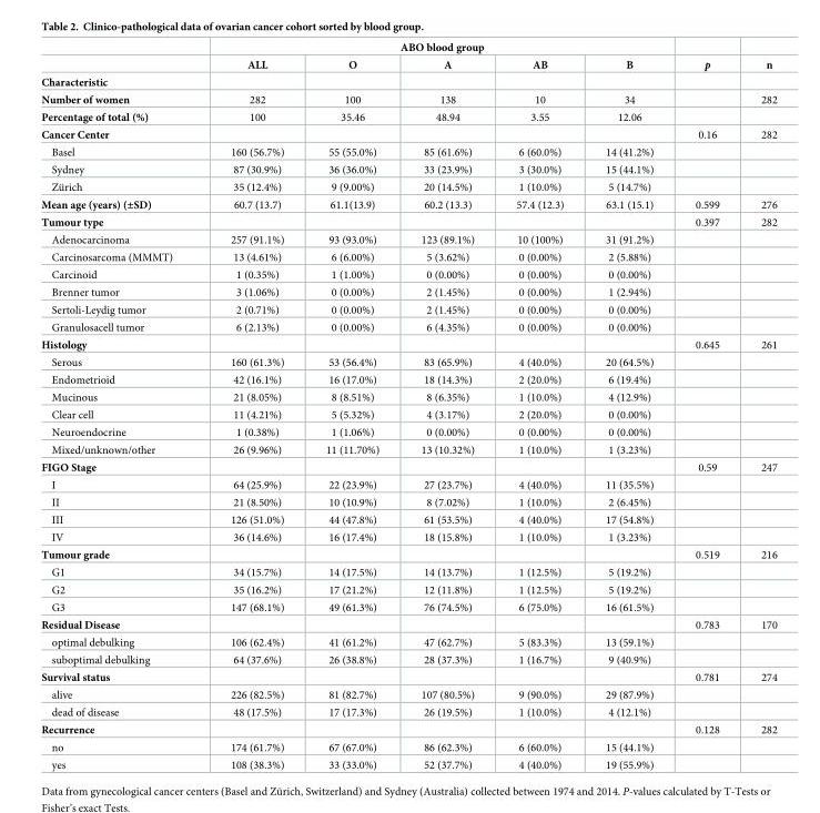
<table><thead><tr><td rowspan="3">Characteristic</td><td colspan="5">ABO blood group</td><td rowspan="3">p</td><td rowspan="3">n</td></tr><tr><td rowspan="2">ALL</td><td rowspan="2">O</td><td rowspan="2">A</td><td rowspan="2">AB</td><td rowspan="2">B</td></tr><tr></tr></thead><tbody><tr><td>Number of women</td><td>282</td><td>100</td><td>138</td><td>10</td><td>34</td><td></td><td>282</td></tr><tr><td>Percentage of total (%)</td><td>100</td><td>35.46</td><td>48.94</td><td>3.55</td><td>12.06</td><td></td><td></td></tr><tr><td>Cancer Center</td><td></td><td></td><td></td><td></td><td></td><td>0.16</td><td>282</td></tr><tr><td>Basel</td><td>160 (56.7%)</td><td>55 (55.0%)</td><td>85 (61.6%)</td><td>6 (60.0%)</td><td>14 (41.2%)</td><td></td><td></td></tr><tr><td>Sydney</td><td>87 (30.9%)</td><td>36 (36.0%)</td><td>33 (23.9%)</td><td>3 (30.0%)</td><td>15 (44.1%)</td><td></td><td></td></tr><tr><td>Zu¨rich</td><td>35 (12.4%)</td><td>9 (9.00%)</td><td>20 (14.5%)</td><td>1 (10.0%)</td><td>5 (14.7%)</td><td></td><td></td></tr><tr><td>Mean age (years) (±SD)</td><td>60.7 (13.7)</td><td>61.1(13.9)</td><td>60.2 (13.3)</td><td>57.4 (12.3)</td><td>63.1 (15.1)</td><td>0.599</td><td>276</td></tr><tr><td>Tumour type</td><td></td><td></td><td></td><td></td><td></td><td>0.397</td><td>282</td></tr><tr><td>Adenocarcinoma</td><td>257 (91.1%)</td><td>93 (93.0%)</td><td>123 (89.1%)</td><td>10 (100%)</td><td>31 (91.2%)</td><td></td><td></td></tr><tr><td>Carcinosarcoma (MMMT)</td><td>13 (4.61%)</td><td>6 (6.00%)</td><td>5 (3.62%)</td><td>0 (0.00%)</td><td>2 (5.88%)</td><td></td><td></td></tr><tr><td>Carcinoid</td><td>1 (0.35%)</td><td>1 (1.00%)</td><td>0 (0.00%)</td><td>0 (0.00%)</td><td>0 (0.00%)</td><td></td><td></td></tr><tr><td>Brenner tumor</td><td>3 (1.06%)</td><td>0 (0.00%)</td><td>2 (1.45%)</td><td>0 (0.00%)</td><td>1 (2.94%)</td><td></td><td></td></tr><tr><td>Sertoli-Leydig tumor</td><td>2 (0.71%)</td><td>0 (0.00%)</td><td>2 (1.45%)</td><td>0 (0.00%)</td><td>0 (0.00%)</td><td></td><td></td></tr><tr><td>Granulosacell tumor</td><td>6 (2.13%)</td><td>0 (0.00%)</td><td>6 (4.35%)</td><td>0 (0.00%)</td><td>0 (0.00%)</td><td></td><td></td></tr><tr><td>Histology</td><td></td><td></td><td></td><td></td><td></td><td>0.645</td><td>261</td></tr><tr><td>Serous</td><td>160 (61.3%)</td><td>53 (56.4%)</td><td>83 (65.9%)</td><td>4 (40.0%)</td><td>20 (64.5%)</td><td></td><td></td></tr><tr><td>Endometrioid</td><td>42 (16.1%)</td><td>16 (17.0%)</td><td>18 (14.3%)</td><td>2 (20.0%)</td><td>6 (19.4%)</td><td></td><td></td></tr><tr><td>Mucinous</td><td>21 (8.05%)</td><td>8 (8.51%)</td><td>8 (6.35%)</td><td>1 (10.0%)</td><td>4 (12.9%)</td><td></td><td></td></tr><tr><td>Clear cell</td><td>11 (4.21%)</td><td>5 (5.32%)</td><td>4 (3.17%)</td><td>2 (20.0%)</td><td>0 (0.00%)</td><td></td><td></td></tr><tr><td>Neuroendocrine</td><td>1 (0.38%)</td><td>1 (1.06%)</td><td>0 (0.00%)</td><td>0 (0.00%)</td><td>0 (0.00%)</td><td></td><td></td></tr><tr><td>Mixed/unknown/other</td><td>26 (9.96%)</td><td>11 (11.70%)</td><td>13 (10.32%)</td><td>1 (10.0%)</td><td>1 (3.23%)</td><td></td><td></td></tr><tr><td>FIGO Stage</td><td></td><td></td><td></td><td></td><td></td><td>0.59</td><td>247</td></tr><tr><td>I</td><td>64 (25.9%)</td><td>22 (23.9%)</td><td>27 (23.7%)</td><td>4 (40.0%)</td><td>11 (35.5%)</td><td></td><td></td></tr><tr><td>II</td><td>21 (8.50%)</td><td>10 (10.9%)</td><td>8 (7.02%)</td><td>1 (10.0%)</td><td>2 (6.45%)</td><td></td><td></td></tr><tr><td>III</td><td>126 (51.0%)</td><td>44 (47.8%)</td><td>61 (53.5%)</td><td>4 (40.0%)</td><td>17 (54.8%)</td><td></td><td></td></tr><tr><td>IV</td><td>36 (14.6%)</td><td>16 (17.4%)</td><td>18 (15.8%)</td><td>1 (10.0%)</td><td>1 (3.23%)</td><td></td><td></td></tr><tr><td>Tumour grade</td><td></td><td></td><td></td><td></td><td></td><td>0.519</td><td>216</td></tr><tr><td>G1</td><td>34 (15.7%)</td><td>14 (17.5%)</td><td>14 (13.7%)</td><td>1 (12.5%)</td><td>5 (19.2%)</td><td></td><td></td></tr><tr><td>G2</td><td>35 (16.2%)</td><td>17 (21.2%)</td><td>12 (11.8%)</td><td>1 (12.5%)</td><td>5 (19.2%)</td><td></td><td></td></tr><tr><td>G3</td><td>147 (68.1%)</td><td>49 (61.3%)</td><td>76 (74.5%)</td><td>6 (75.0%)</td><td>16 (61.5%)</td><td></td><td></td></tr><tr><td>Residual Disease</td><td></td><td></td><td></td><td></td><td></td><td>0.783</td><td>170</td></tr><tr><td>optimal debulking</td><td>106 (62.4%)</td><td>41 (61.2%)</td><td>47 (62.7%)</td><td>5 (83.3%)</td><td>13 (59.1%)</td><td></td><td></td></tr><tr><td>suboptimal debulking</td><td>64 (37.6%)</td><td>26 (38.8%)</td><td>28 (37.3%)</td><td>1 (16.7%)</td><td>9 (40.9%)</td><td></td><td></td></tr><tr><td>Survival status</td><td></td><td></td><td></td><td></td><td></td><td>0.781</td><td>274</td></tr><tr><td>alive</td><td>226 (82.5%)</td><td>81 (82.7%)</td><td>107 (80.5%)</td><td>9 (90.0%)</td><td>29 (87.9%)</td><td></td><td></td></tr><tr><td>dead of disease</td><td>48 (17.5%)</td><td>17 (17.3%)</td><td>26 (19.5%)</td><td>1 (10.0%)</td><td>4 (12.1%)</td><td></td><td></td></tr><tr><td>Recurrence</td><td></td><td></td><td></td><td></td><td></td><td>0.128</td><td>282</td></tr><tr><td>no</td><td>174 (61.7%)</td><td>67 (67.0%)</td><td>86 (62.3%)</td><td>6 (60.0%)</td><td>15 (44.1%)</td><td></td><td></td></tr><tr><td>yes</td><td>108 (38.3%)</td><td>33 (33.0%)</td><td>52 (37.7%)</td><td>4 (40.0%)</td><td>19 (55.9%)</td><td></td><td></td></tr></tbody></table>